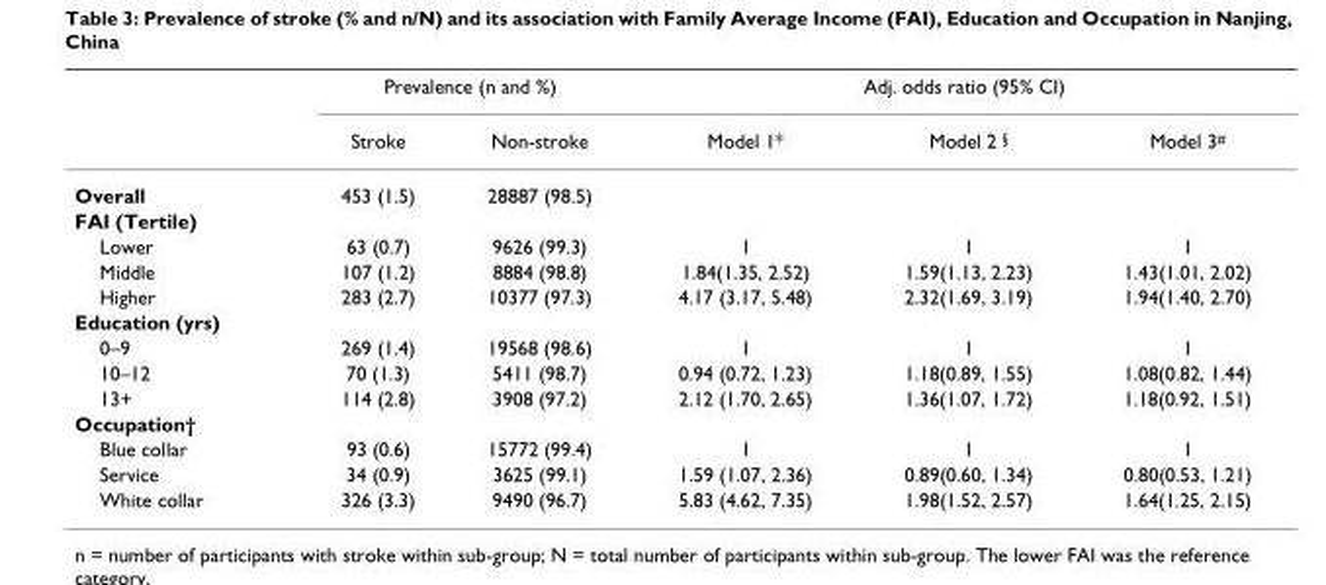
<table><thead><tr><td rowspan="2"></td><td colspan="2">Prevalence (n and %)</td><td colspan="3">Adj. odds ratio (95% CI)</td></tr><tr><td>Stroke</td><td>Non-stroke</td><td>Model 1*</td><td>Model 2 <sup>§</sup></td><td>Model 3<sup>#</sup></td></tr></thead><tbody><tr><td>Overall</td><td>453 (1.5)</td><td>28887 (98.5)</td><td></td><td></td><td></td></tr><tr><td colspan="6">FAI (Tertile)</td></tr><tr><td>Lower</td><td>63 (0.7)</td><td>9626 (99.3)</td><td>1</td><td>1</td><td>1</td></tr><tr><td>Middle</td><td>107 (1.2)</td><td>8884 (98.8)</td><td>1.84(1.35, 2.52)</td><td>1.59(1.13, 2.23)</td><td>1.43(1.01, 2.02)</td></tr><tr><td>Higher</td><td>283 (2.7)</td><td>10377 (97.3)</td><td>4.17 (3.17, 5.48)</td><td>2.32(1.69, 3.19)</td><td>1.94(1.40, 2.70)</td></tr><tr><td colspan="6">Education (yrs)</td></tr><tr><td>0–9</td><td>269 (1.4)</td><td>19568 (98.6)</td><td>1</td><td>1</td><td>1</td></tr><tr><td>10–12</td><td>70 (1.3)</td><td>5411 (98.7)</td><td>0.94 (0.72, 1.23)</td><td>1.18(0.89, 1.55)</td><td>1.08(0.82, 1.44)</td></tr><tr><td>13+</td><td>114 (2.8)</td><td>3908 (97.2)</td><td>2.12 (1.70, 2.65)</td><td>1.36(1.07, 1.72)</td><td>1.18(0.92, 1.51)</td></tr><tr><td colspan="6">Occupation†</td></tr><tr><td>Blue collar</td><td>93 (0.6)</td><td>15772 (99.4)</td><td>1</td><td>1</td><td>1</td></tr><tr><td>Service</td><td>34 (0.9)</td><td>3625 (99.1)</td><td>1.59 (1.07, 2.36)</td><td>0.89(0.60, 1.34)</td><td>0.80(0.53, 1.21)</td></tr><tr><td>White collar</td><td>326 (3.3)</td><td>9490 (96.7)</td><td>5.83 (4.62, 7.35)</td><td>1.98(1.52, 2.57)</td><td>1.64(1.25, 2.15)</td></tr></tbody></table>